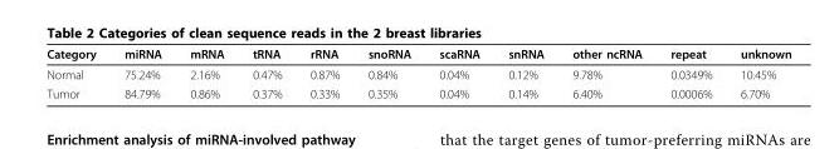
<table><thead><tr><td>Category</td><td>miRNA</td><td>mRNA</td><td>tRNA</td><td>rRNA</td><td>snoRNA</td><td>scaRNA</td><td>snRNA</td><td>other ncRNA</td><td>repeat</td><td>unknown</td></tr></thead><tbody><tr><td>Normal</td><td>75.24%</td><td>2.16%</td><td>0.47%</td><td>0.87%</td><td>0.84%</td><td>0.04%</td><td>0.12%</td><td>9.78%</td><td>0.0349%</td><td>10.45%</td></tr><tr><td>Tumor</td><td>84.79%</td><td>0.86%</td><td>0.37%</td><td>0.33%</td><td>0.35%</td><td>0.04%</td><td>0.14%</td><td>6.40%</td><td>0.0006%</td><td>6.70%</td></tr></tbody></table>